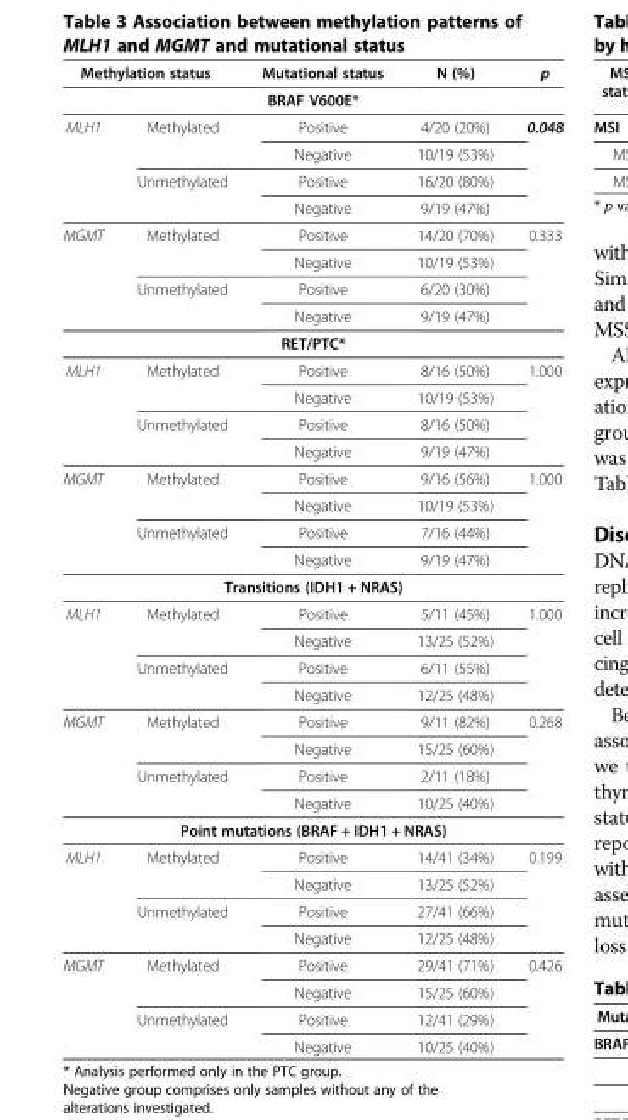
<table><thead><tr><td colspan="2">Methylation status</td><td>Mutational status</td><td>N (%)</td><td>p</td></tr><tr><td colspan="5">BRAF V600E*</td></tr><tr><td>MLH1</td><td>Methylated</td><td>Positive</td><td>4/20 (20%)</td><td>0.048</td></tr></thead><tbody><tr><td></td><td></td><td>Negative</td><td>10/19 (53%)</td><td></td></tr><tr><td></td><td>Unmethylated</td><td>Positive</td><td>16/20 (80%)</td><td></td></tr><tr><td></td><td></td><td>Negative</td><td>9/19 (47%)</td><td></td></tr><tr><td rowspan="4">MGMT</td><td>Methylated</td><td>Positive</td><td>14/20 (70%)</td><td>0.333</td></tr><tr><td></td><td>Negative</td><td>10/19 (53%)</td><td></td></tr><tr><td>Unmethylated</td><td>Positive</td><td>6/20 (30%)</td><td></td></tr><tr><td></td><td>Negative</td><td>9/19 (47%)</td><td></td></tr><tr><td colspan="5">RET/PTC*</td></tr><tr><td rowspan="4">MLH1</td><td>Methylated</td><td>Positive</td><td>8/16 (50%)</td><td>1.000</td></tr><tr><td></td><td>Negative</td><td>10/19 (53%)</td><td></td></tr><tr><td>Unmethylated</td><td>Positive</td><td>8/16 (50%)</td><td></td></tr><tr><td></td><td>Negative</td><td>9/19 (47%)</td><td></td></tr><tr><td rowspan="4">MGMT</td><td>Methylated</td><td>Positive</td><td>9/16 (56%)</td><td>1.000</td></tr><tr><td></td><td>Negative</td><td>10/19 (53%)</td><td></td></tr><tr><td>Unmethylated</td><td>Positive</td><td>7/16 (44%)</td><td></td></tr><tr><td></td><td>Negative</td><td>9/19 (47%)</td><td></td></tr><tr><td colspan="5">Transitions (IDH1 + NRAS)</td></tr><tr><td rowspan="4">MLH1</td><td>Methylated</td><td>Positive</td><td>5/11 (45%)</td><td>1.000</td></tr><tr><td></td><td>Negative</td><td>13/25 (52%)</td><td></td></tr><tr><td>Unmethylated</td><td>Positive</td><td>6/11 (55%)</td><td></td></tr><tr><td></td><td>Negative</td><td>12/25 (48%)</td><td></td></tr><tr><td rowspan="4">MGMT</td><td>Methylated</td><td>Positive</td><td>9/11 (82%)</td><td>0.268</td></tr><tr><td></td><td>Negative</td><td>15/25 (60%)</td><td></td></tr><tr><td>Unmethylated</td><td>Positive</td><td>2/11 (18%)</td><td></td></tr><tr><td></td><td>Negative</td><td>10/25 (40%)</td><td></td></tr><tr><td colspan="5">Point mutations (BRAF + IDH1 + NRAS)</td></tr><tr><td rowspan="4">MLH1</td><td>Methylated</td><td>Positive</td><td>14/41 (34%)</td><td>0.199</td></tr><tr><td></td><td>Negative</td><td>13/25 (52%)</td><td></td></tr><tr><td>Unmethylated</td><td>Positive</td><td>27/41 (66%)</td><td></td></tr><tr><td></td><td>Negative</td><td>12/25 (48%)</td><td></td></tr><tr><td rowspan="4">MGMT</td><td>Methylated</td><td>Positive</td><td>29/41 (71%)</td><td>0.426</td></tr><tr><td></td><td>Negative</td><td>15/25 (60%)</td><td></td></tr><tr><td>Unmethylated</td><td>Positive</td><td>12/41 (29%)</td><td></td></tr><tr><td></td><td>Negative</td><td>10/25 (40%)</td><td></td></tr></tbody></table>